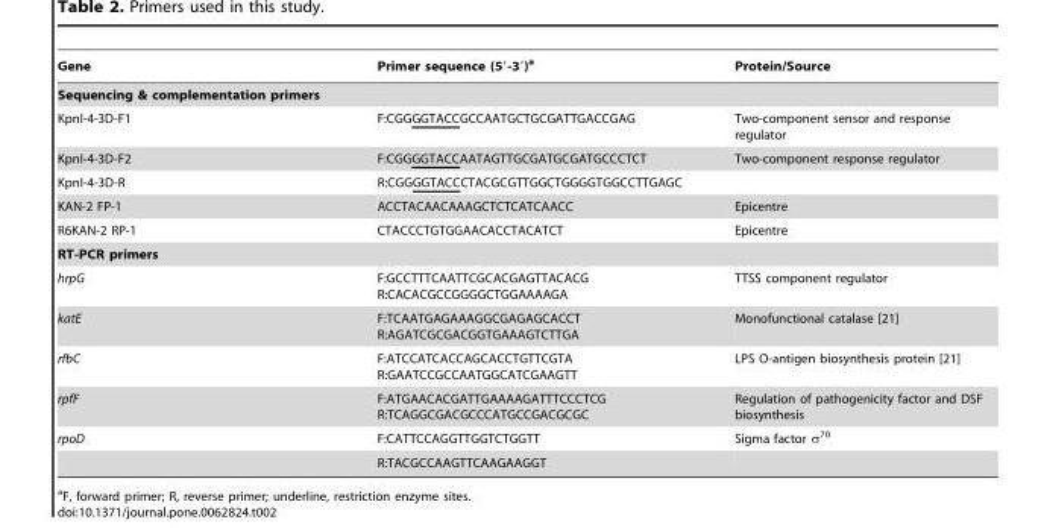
<table><thead><tr><td>Gene</td><td>Primer sequence (5′-3′)<sup>a</sup></td><td>Protein/Source</td></tr></thead><tbody><tr><td colspan="3">Sequencing &amp; complementation primers</td></tr><tr><td>KpnI-4-3D-F1</td><td>F:CGGGGTACCGCCAATGCTGCGATTGACCGAG</td><td>Two-component sensor and response regulator</td></tr><tr><td>KpnI-4-3D-F2</td><td>F:CGGGGTACCAATAGTTGCGATGCGATGCCCTCT</td><td>Two-component response regulator</td></tr><tr><td>KpnI-4-3D-R</td><td>R:CGGGGTACCCTACGCGTTGGCTGGGGTGGCCTTGAGC</td><td></td></tr><tr><td>KAN-2 FP-1</td><td>ACCTACAACAAAGCTCTCATCAACC</td><td>Epicentre</td></tr><tr><td>R6KAN-2 RP-1</td><td>CTACCCTGTGGAACACCTACATCT</td><td>Epicentre</td></tr><tr><td colspan="3">RT-PCR primers</td></tr><tr><td>hrpG</td><td>F:GCCTTTCAATTCGCACGAGTTACACG R:CACACGCCGGGGCTGGAAAAGA</td><td>TTSS component regulator</td></tr><tr><td>katE</td><td>F:TCAATGAGAAAGGCGAGAGCACCT R:AGATCGCGACGGTGAAAGTCTTGA</td><td>Monofunctional catalase [21]</td></tr><tr><td>rfbC</td><td>F:ATCCATCACCAGCACCTGTTCGTA R:GAATCCGCCAATGGCATCGAAGTT</td><td>LPS O-antigen biosynthesis protein [21]</td></tr><tr><td>rpfF</td><td>F:ATGAACACGATTGAAAAGATTTCCCTCG R:TCAGGCGACGCCCATGCCGACGCGC</td><td>Regulation of pathogenicity factor and DSF biosynthesis</td></tr><tr><td rowspan="2">rpoD</td><td>F:CATTCCAGGTTGGTCTGGTT</td><td>Sigma factor σ<sup>70</sup></td></tr><tr><td>R:TACGCCAAGTTCAAGAAGGT</td><td></td></tr></tbody></table>